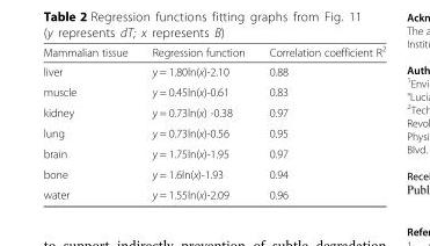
<table><thead><tr><td>Mammalian tissue</td><td>Regression function</td><td>Correlation coefficient R<sup>2</sup></td></tr></thead><tbody><tr><td>liver</td><td>y = 1.80ln(x)-2.10</td><td>0.88</td></tr><tr><td>muscle</td><td>y = 0.45ln(x)-0.61</td><td>0.83</td></tr><tr><td>kidney</td><td>y = 0.73ln(x) -0.38</td><td>0.97</td></tr><tr><td>lung</td><td>y = 0.73ln(x)-0.56</td><td>0.95</td></tr><tr><td>brain</td><td>y = 1.75ln(x)-1.95</td><td>0.97</td></tr><tr><td>bone</td><td>y = 1.6ln(x)-1.93</td><td>0.94</td></tr><tr><td>water</td><td>y = 1.55ln(x)-2.09</td><td>0.96</td></tr></tbody></table>